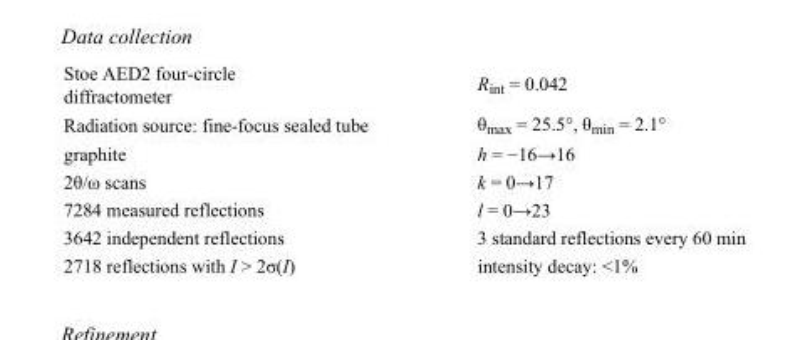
<table><tbody><tr><td>Stoe AED2 four-circle diffractometer</td><td>R<sub>int</sub> = 0.042</td></tr><tr><td>Radiation source: fine-focus sealed tube</td><td>θ<sub>max</sub> = 25.5°, θ<sub>min</sub> = 2.1°</td></tr><tr><td>graphite</td><td>h = −16→16</td></tr><tr><td>2θ/ω scans</td><td>k = 0→17</td></tr><tr><td>7284 measured reflections</td><td>l = 0→23</td></tr><tr><td>3642 independent reflections</td><td>3 standard reflections every 60 min</td></tr><tr><td>2718 reflections with I &gt; 2σ(I)</td><td>intensity decay: &lt;1%</td></tr></tbody></table>